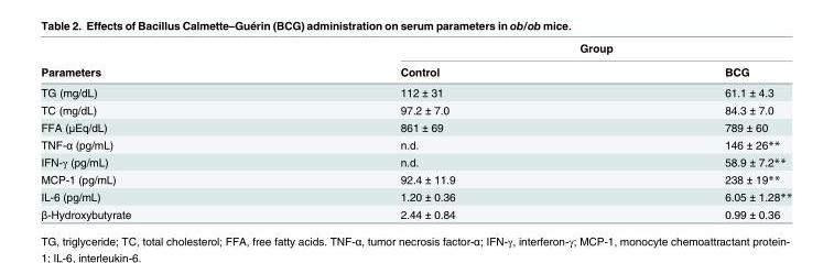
<table><thead><tr><td rowspan="2">Parameters</td><td colspan="2">Group</td></tr><tr><td>Control</td><td>BCG</td></tr></thead><tbody><tr><td>TG (mg/dL)</td><td>112 ± 31</td><td>61.1 ± 4.3</td></tr><tr><td>TC (mg/dL)</td><td>97.2 ± 7.0</td><td>84.3 ± 7.0</td></tr><tr><td>FFA (μEq/dL)</td><td>861 ± 69</td><td>789 ± 60</td></tr><tr><td>TNF-α (pg/mL)</td><td>n.d.</td><td>146 ± 26**</td></tr><tr><td>IFN-γ (pg/mL)</td><td>n.d.</td><td>58.9 ± 7.2**</td></tr><tr><td>MCP-1 (pg/mL)</td><td>92.4 ± 11.9</td><td>238 ± 19**</td></tr><tr><td>IL-6 (pg/mL)</td><td>1.20 ± 0.36</td><td>6.05 ± 1.28**</td></tr><tr><td>β-Hydroxybutyrate</td><td>2.44 ± 0.84</td><td>0.99 ± 0.36</td></tr></tbody></table>